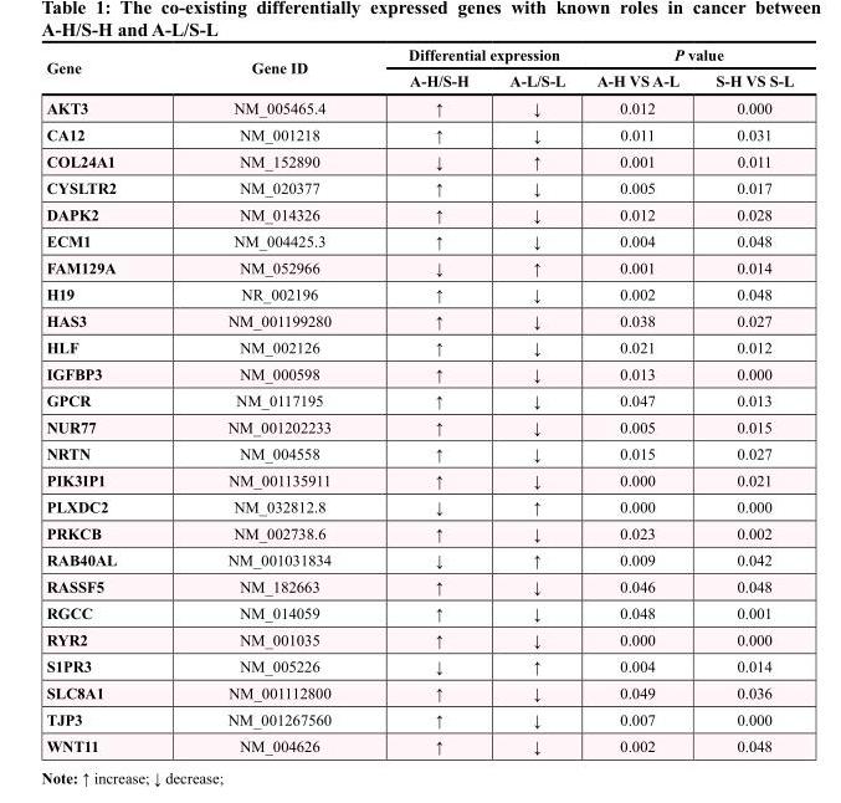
<table><thead><tr><td rowspan="2">Gene</td><td rowspan="2">Gene ID</td><td colspan="2">Differential expression</td><td colspan="2">P value</td></tr><tr><td>A-H/S-H</td><td>A-L/S-L</td><td>A-H VS A-L</td><td>S-H VS S-L</td></tr></thead><tbody><tr><td>AKT3</td><td>NM_005465.4</td><td>↑</td><td>↓</td><td>0.012</td><td>0.000</td></tr><tr><td>CA12</td><td>NM_001218</td><td>↑</td><td>↓</td><td>0.011</td><td>0.031</td></tr><tr><td>COL24A1</td><td>NM_152890</td><td>↓</td><td>↑</td><td>0.001</td><td>0.011</td></tr><tr><td>CYSLTR2</td><td>NM_020377</td><td>↑</td><td>↓</td><td>0.005</td><td>0.017</td></tr><tr><td>DAPK2</td><td>NM_014326</td><td>↑</td><td>↓</td><td>0.012</td><td>0.028</td></tr><tr><td>ECM1</td><td>NM_004425.3</td><td>↑</td><td>↓</td><td>0.004</td><td>0.048</td></tr><tr><td>FAM129A</td><td>NM_052966</td><td>↓</td><td>↑</td><td>0.001</td><td>0.014</td></tr><tr><td>H19</td><td>NR_002196</td><td>↑</td><td>↓</td><td>0.002</td><td>0.048</td></tr><tr><td>HAS3</td><td>NM_001199280</td><td>↑</td><td>↓</td><td>0.038</td><td>0.027</td></tr><tr><td>HLF</td><td>NM_002126</td><td>↑</td><td>↓</td><td>0.021</td><td>0.012</td></tr><tr><td>IGFBP3</td><td>NM_000598</td><td>↑</td><td>↓</td><td>0.013</td><td>0.000</td></tr><tr><td>GPCR</td><td>NM_0117195</td><td>↑</td><td>↓</td><td>0.047</td><td>0.013</td></tr><tr><td>NUR77</td><td>NM_001202233</td><td>↑</td><td>↓</td><td>0.005</td><td>0.015</td></tr><tr><td>NRTN</td><td>NM_004558</td><td>↑</td><td>↓</td><td>0.015</td><td>0.027</td></tr><tr><td>PIK3IP1</td><td>NM_001135911</td><td>↑</td><td>↓</td><td>0.000</td><td>0.021</td></tr><tr><td>PLXDC2</td><td>NM_032812.8</td><td>↓</td><td>↑</td><td>0.000</td><td>0.000</td></tr><tr><td>PRKCB</td><td>NM_002738.6</td><td>↑</td><td>↓</td><td>0.023</td><td>0.002</td></tr><tr><td>RAB40AL</td><td>NM_001031834</td><td>↓</td><td>↑</td><td>0.009</td><td>0.042</td></tr><tr><td>RASSF5</td><td>NM_182663</td><td>↑</td><td>↓</td><td>0.046</td><td>0.048</td></tr><tr><td>RGCC</td><td>NM_014059</td><td>↑</td><td>↓</td><td>0.048</td><td>0.001</td></tr><tr><td>RYR2</td><td>NM_001035</td><td>↑</td><td>↓</td><td>0.000</td><td>0.000</td></tr><tr><td>S1PR3</td><td>NM_005226</td><td>↓</td><td>↑</td><td>0.004</td><td>0.014</td></tr><tr><td>SLC8A1</td><td>NM_001112800</td><td>↑</td><td>↓</td><td>0.049</td><td>0.036</td></tr><tr><td>TJP3</td><td>NM_001267560</td><td>↑</td><td>↓</td><td>0.007</td><td>0.000</td></tr><tr><td>WNT11</td><td>NM_004626</td><td>↑</td><td>↓</td><td>0.002</td><td>0.048</td></tr></tbody></table>